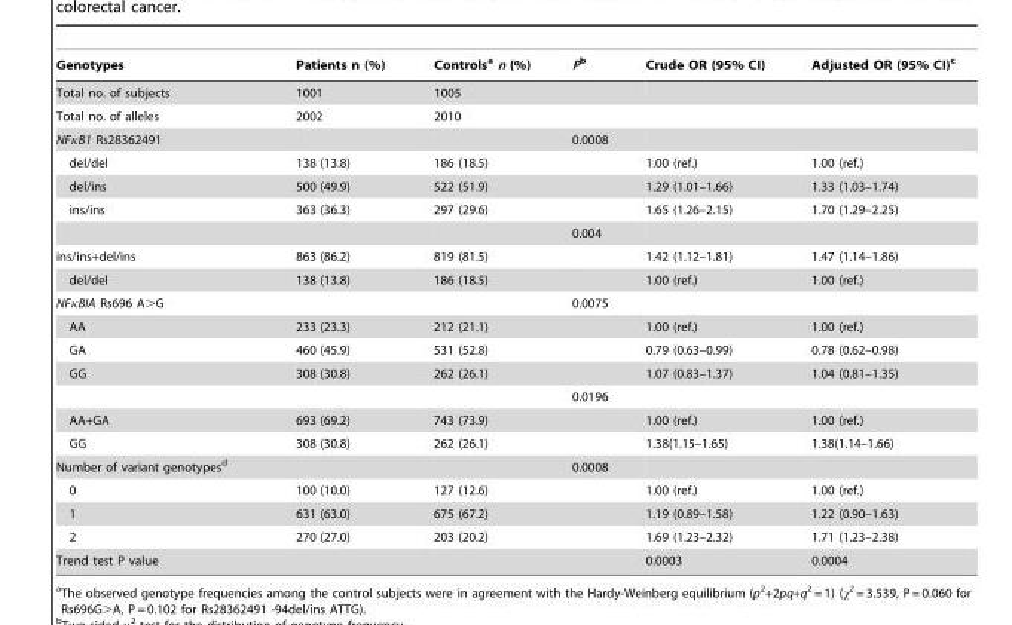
<table><thead><tr><td>Genotypes</td><td>Patients n (%)</td><td>Controls<sup>a</sup> n (%)</td><td>Pb</td><td>Crude OR (95% CI)</td><td>Adjusted OR (95% CI)<sup>c</sup></td></tr></thead><tbody><tr><td>Total no. of subjects</td><td>1001</td><td>1005</td><td></td><td></td><td></td></tr><tr><td>Total no. of alleles</td><td>2002</td><td>2010</td><td></td><td></td><td></td></tr><tr><td>NFκB1 Rs28362491</td><td></td><td></td><td>0.0008</td><td></td><td></td></tr><tr><td>del/del</td><td>138 (13.8)</td><td>186 (18.5)</td><td></td><td>1.00 (ref.)</td><td>1.00 (ref.)</td></tr><tr><td>del/ins</td><td>500 (49.9)</td><td>522 (51.9)</td><td></td><td>1.29 (1.01–1.66)</td><td>1.33 (1.03–1.74)</td></tr><tr><td rowspan="2">ins/ins</td><td>363 (36.3)</td><td>297 (29.6)</td><td></td><td>1.65 (1.26–2.15)</td><td>1.70 (1.29–2.25)</td></tr><tr><td></td><td></td><td>0.004</td><td></td><td></td></tr><tr><td>ins/ins+del/ins</td><td>863 (86.2)</td><td>819 (81.5)</td><td></td><td>1.42 (1.12–1.81)</td><td>1.47 (1.14–1.86)</td></tr><tr><td>del/del</td><td>138 (13.8)</td><td>186 (18.5)</td><td></td><td>1.00 (ref.)</td><td>1.00 (ref.)</td></tr><tr><td>NFκBIA Rs696 A&gt;G</td><td></td><td></td><td>0.0075</td><td></td><td></td></tr><tr><td>AA</td><td>233 (23.3)</td><td>212 (21.1)</td><td></td><td>1.00 (ref.)</td><td>1.00 (ref.)</td></tr><tr><td>GA</td><td>460 (45.9)</td><td>531 (52.8)</td><td></td><td>0.79 (0.63–0.99)</td><td>0.78 (0.62–0.98)</td></tr><tr><td rowspan="2">GG</td><td>308 (30.8)</td><td>262 (26.1)</td><td></td><td>1.07 (0.83–1.37)</td><td>1.04 (0.81–1.35)</td></tr><tr><td></td><td></td><td>0.0196</td><td></td><td></td></tr><tr><td>AA+GA</td><td>693 (69.2)</td><td>743 (73.9)</td><td></td><td>1.00 (ref.)</td><td>1.00 (ref.)</td></tr><tr><td>GG</td><td>308 (30.8)</td><td>262 (26.1)</td><td></td><td>1.38(1.15–1.65)</td><td>1.38(1.14–1.66)</td></tr><tr><td>Number of variant genotypes<sup>d</sup></td><td></td><td></td><td>0.0008</td><td></td><td></td></tr><tr><td>0</td><td>100 (10.0)</td><td>127 (12.6)</td><td></td><td>1.00 (ref.)</td><td>1.00 (ref.)</td></tr><tr><td>1</td><td>631 (63.0)</td><td>675 (67.2)</td><td></td><td>1.19 (0.89–1.58)</td><td>1.22 (0.90–1.63)</td></tr><tr><td>2</td><td>270 (27.0)</td><td>203 (20.2)</td><td></td><td>1.69 (1.23–2.32)</td><td>1.71 (1.23–2.38)</td></tr><tr><td>Trend test P value</td><td></td><td></td><td></td><td>0.0003</td><td>0.0004</td></tr></tbody></table>